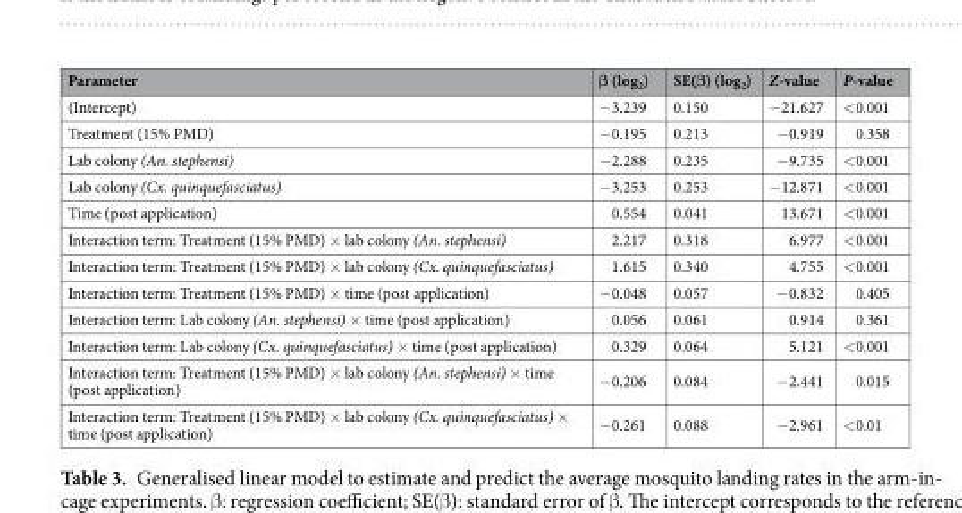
<table><thead><tr><td>Parameter</td><td>β (log<sub>2</sub>)</td><td>SE(β) (log<sub>2</sub>)</td><td>Z-value</td><td>P-value</td></tr></thead><tbody><tr><td>(Intercept)</td><td>−3.239</td><td>0.150</td><td>−21.627</td><td>&lt;0.001</td></tr><tr><td>Treatment (15% PMD)</td><td>−0.195</td><td>0.213</td><td>−0.919</td><td>0.358</td></tr><tr><td>Lab colony (An. stephensi)</td><td>−2.288</td><td>0.235</td><td>−9.735</td><td>&lt;0.001</td></tr><tr><td>Lab colony (Cx. quinquefasciatus)</td><td>−3.253</td><td>0.253</td><td>−12.871</td><td>&lt;0.001</td></tr><tr><td>Time (post application)</td><td>0.554</td><td>0.041</td><td>13.671</td><td>&lt;0.001</td></tr><tr><td>Interaction term: Treatment (15% PMD) × lab colony (An. stephensi)</td><td>2.217</td><td>0.318</td><td>6.977</td><td>&lt;0.001</td></tr><tr><td>Interaction term: Treatment (15% PMD) × lab colony (Cx. quinquefasciatus)</td><td>1.615</td><td>0.340</td><td>4.755</td><td>&lt;0.001</td></tr><tr><td>Interaction term: Treatment (15% PMD) × time (post application)</td><td>−0.048</td><td>0.057</td><td>−0.832</td><td>0.405</td></tr><tr><td>Interaction term: Lab colony (An. stephensi) × time (post application)</td><td>0.056</td><td>0.061</td><td>0.914</td><td>0.361</td></tr><tr><td>Interaction term: Lab colony (Cx. quinquefasciatus) × time (post application)</td><td>0.329</td><td>0.064</td><td>5.121</td><td>&lt;0.001</td></tr><tr><td>Interaction term: Treatment (15% PMD) × lab colony (An. stephensi) × time (post application)</td><td>−0.206</td><td>0.084</td><td>−2.441</td><td>0.015</td></tr><tr><td>Interaction term: Treatment (15% PMD) × lab colony (Cx. quinquefasciatus) × time (post application)</td><td>−0.261</td><td>0.088</td><td>−2.961</td><td>&lt;0.01</td></tr></tbody></table>